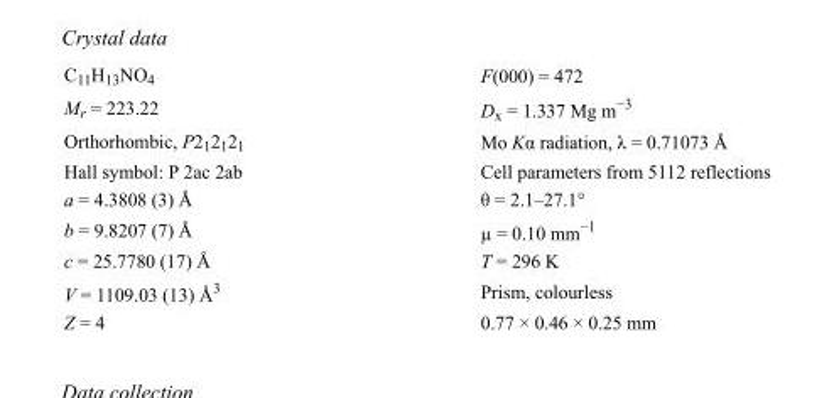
<table><tbody><tr><td>C<sub>11</sub>H<sub>13</sub>NO<sub>4</sub></td><td>F(000) = 472</td></tr><tr><td>M<sub>r</sub> = 223.22</td><td>D<sub>x</sub> = 1.337 Mg m<sup>−3</sup></td></tr><tr><td>Orthorhombic, P2<sub>1</sub>2<sub>1</sub>2<sub>1</sub></td><td>Mo Kα radiation, λ = 0.71073 Å</td></tr><tr><td>Hall symbol: P 2ac 2ab</td><td>Cell parameters from 5112 reflections</td></tr><tr><td>a = 4.3808 (3) Å</td><td>θ = 2.1–27.1°</td></tr><tr><td>b = 9.8207 (7) Å</td><td>µ = 0.10 mm<sup>−1</sup></td></tr><tr><td>c = 25.7780 (17) Å</td><td>T = 296 K</td></tr><tr><td>V = 1109.03 (13) Å<sup>3</sup></td><td>Prism, colourless</td></tr><tr><td>Z = 4</td><td>0.77 × 0.46 × 0.25 mm</td></tr></tbody></table>